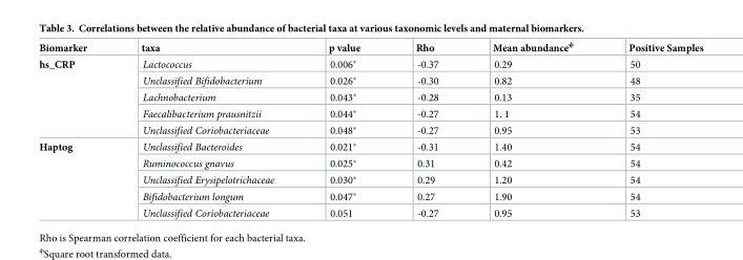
<table><thead><tr><td>Biomarker</td><td>taxa</td><td>p value</td><td>Rho</td><td>Mean abundance<sup>ϕ</sup></td><td>Positive Samples</td></tr></thead><tbody><tr><td rowspan="5">hs_CRP</td><td>Lactococcus</td><td>0.006*</td><td>-0.37</td><td>0.29</td><td>50</td></tr><tr><td>Unclassified Bifidobacterium</td><td>0.026*</td><td>-0.30</td><td>0.82</td><td>48</td></tr><tr><td>Lachnobacterium</td><td>0.043*</td><td>-0.28</td><td>0.13</td><td>35</td></tr><tr><td>Faecalibacterium prausnitzii</td><td>0.044*</td><td>-0.27</td><td>1. 1</td><td>54</td></tr><tr><td>Unclassified Coriobacteriaceae</td><td>0.048*</td><td>-0.27</td><td>0.95</td><td>53</td></tr><tr><td rowspan="5">Haptog</td><td>Unclassified Bacteroides</td><td>0.021*</td><td>-0.31</td><td>1.40</td><td>54</td></tr><tr><td>Ruminococcus gnavus</td><td>0.025*</td><td>0.31</td><td>0.42</td><td>54</td></tr><tr><td>Unclassified Erysipelotrichaceae</td><td>0.030*</td><td>0.29</td><td>1.20</td><td>54</td></tr><tr><td>Bifidobacterium longum</td><td>0.047*</td><td>0.27</td><td>1.90</td><td>54</td></tr><tr><td>Unclassified Coriobacteriaceae</td><td>0.051</td><td>-0.27</td><td>0.95</td><td>53</td></tr></tbody></table>